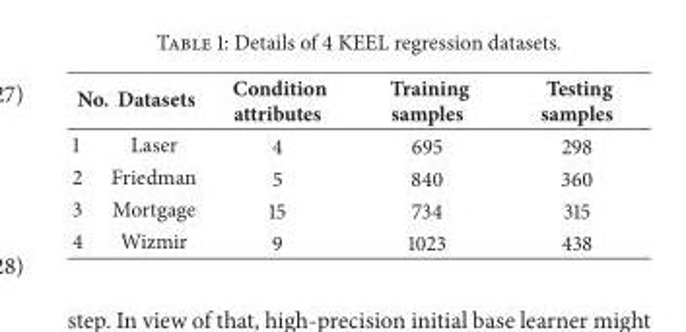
<table><thead><tr><td>No.</td><td>Datasets</td><td>Condition attributes</td><td>Training samples</td><td>Testing samples</td></tr></thead><tbody><tr><td>1</td><td>Laser</td><td>4</td><td>695</td><td>298</td></tr><tr><td>2</td><td>Friedman</td><td>5</td><td>840</td><td>360</td></tr><tr><td>3</td><td>Mortgage</td><td>15</td><td>734</td><td>315</td></tr><tr><td>4</td><td>Wizmir</td><td>9</td><td>1023</td><td>438</td></tr></tbody></table>